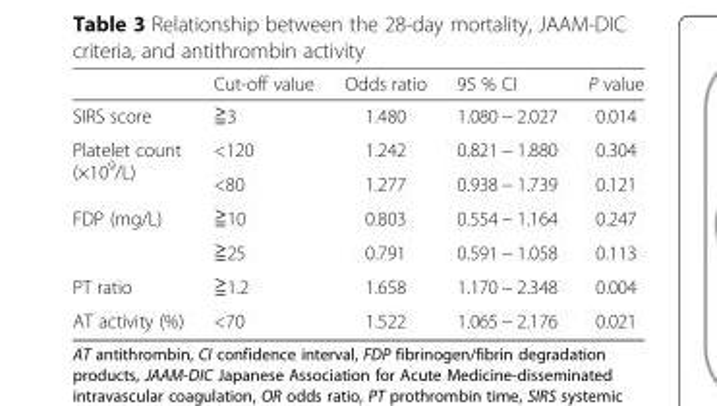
<table><thead><tr><td></td><td>Cut-off value</td><td>Odds ratio</td><td>95 % CI</td><td>P value</td></tr></thead><tbody><tr><td>SIRS score</td><td>≧3</td><td>1.480</td><td>1.080 − 2.027</td><td>0.014</td></tr><tr><td rowspan="2">Platelet count (×10<sup>9</sup>/L)</td><td>&lt;120</td><td>1.242</td><td>0.821 − 1.880</td><td>0.304</td></tr><tr><td>&lt;80</td><td>1.277</td><td>0.938 − 1.739</td><td>0.121</td></tr><tr><td rowspan="2">FDP (mg/L)</td><td>≧10</td><td>0.803</td><td>0.554 − 1.164</td><td>0.247</td></tr><tr><td>≧25</td><td>0.791</td><td>0.591 − 1.058</td><td>0.113</td></tr><tr><td>PT ratio</td><td>≧1.2</td><td>1.658</td><td>1.170 − 2.348</td><td>0.004</td></tr><tr><td>AT activity (%)</td><td>&lt;70</td><td>1.522</td><td>1.065 − 2.176</td><td>0.021</td></tr></tbody></table>